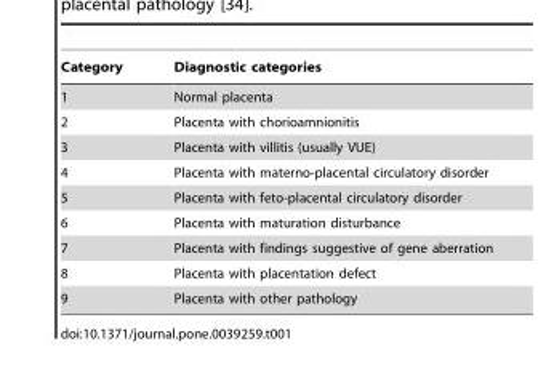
<table><thead><tr><td>Category</td><td>Diagnostic categories</td></tr></thead><tbody><tr><td>1</td><td>Normal placenta</td></tr><tr><td>2</td><td>Placenta with chorioamnionitis</td></tr><tr><td>3</td><td>Placenta with villitis (usually VUE)</td></tr><tr><td>4</td><td>Placenta with materno-placental circulatory disorder</td></tr><tr><td>5</td><td>Placenta with feto-placental circulatory disorder</td></tr><tr><td>6</td><td>Placenta with maturation disturbance</td></tr><tr><td>7</td><td>Placenta with findings suggestive of gene aberration</td></tr><tr><td>8</td><td>Placenta with placentation defect</td></tr><tr><td>9</td><td>Placenta with other pathology</td></tr></tbody></table>